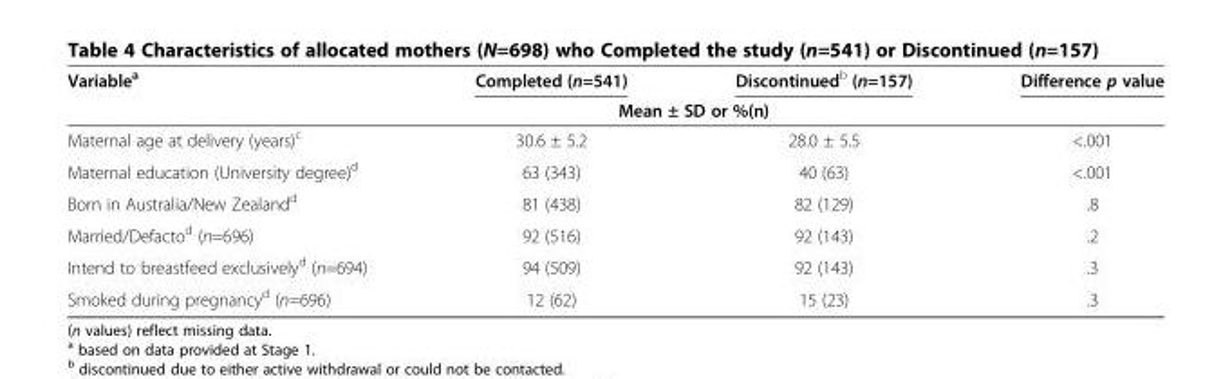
<table><thead><tr><td rowspan="2">Variable<sup>a</sup></td><td>Completed (n=541)</td><td>Discontinued<sup>b</sup> (n=157)</td><td rowspan="2">Difference p value</td></tr><tr><td colspan="2">Mean ± SD or %(n)</td></tr></thead><tbody><tr><td>Maternal age at delivery (years)<sup>c</sup></td><td>30.6 ± 5.2</td><td>28.0 ± 5.5</td><td>&lt;.001</td></tr><tr><td>Maternal education (University degree)<sup>d</sup></td><td>63 (343)</td><td>40 (63)</td><td>&lt;.001</td></tr><tr><td>Born in Australia/New Zealand<sup>d</sup></td><td>81 (438)</td><td>82 (129)</td><td>.8</td></tr><tr><td>Married/Defacto<sup>d</sup> (n=696)</td><td>92 (516)</td><td>92 (143)</td><td>.2</td></tr><tr><td>Intend to breastfeed exclusively<sup>d</sup> (n=694)</td><td>94 (509)</td><td>92 (143)</td><td>.3</td></tr><tr><td>Smoked during pregnancy<sup>d</sup> (n=696)</td><td>12 (62)</td><td>15 (23)</td><td>.3</td></tr></tbody></table>